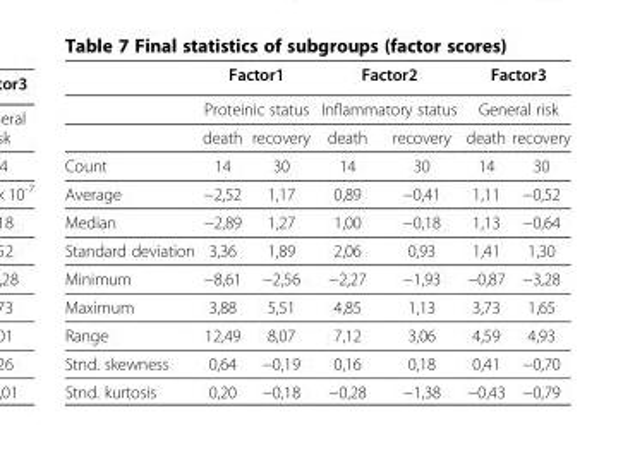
<table><thead><tr><td rowspan="3"></td><td rowspan="2" colspan="2">Factor1 Proteinic status</td><td rowspan="2" colspan="2">Factor2 Inflammatory status</td><td rowspan="2" colspan="2">Factor3 General risk</td></tr><tr></tr><tr><td>death</td><td>recovery</td><td>death</td><td>recovery</td><td>death</td><td>recovery</td></tr></thead><tbody><tr><td>Count</td><td>14</td><td>30</td><td>14</td><td>30</td><td>14</td><td>30</td></tr><tr><td>Average</td><td>−2,52</td><td>1,17</td><td>0,89</td><td>−0,41</td><td>1,11</td><td>−0,52</td></tr><tr><td>Median</td><td>−2,89</td><td>1,27</td><td>1,00</td><td>−0,18</td><td>1,13</td><td>−0,64</td></tr><tr><td>Standard deviation</td><td>3,36</td><td>1,89</td><td>2,06</td><td>0,93</td><td>1,41</td><td>1,30</td></tr><tr><td>Minimum</td><td>−8,61</td><td>−2,56</td><td>−2,27</td><td>−1,93</td><td>−0,87</td><td>−3,28</td></tr><tr><td>Maximum</td><td>3,88</td><td>5,51</td><td>4,85</td><td>1,13</td><td>3,73</td><td>1,65</td></tr><tr><td>Range</td><td>12,49</td><td>8,07</td><td>7,12</td><td>3,06</td><td>4,59</td><td>4,93</td></tr><tr><td>Stnd. skewness</td><td>0,64</td><td>−0,19</td><td>0,16</td><td>0,18</td><td>0,41</td><td>−0,70</td></tr><tr><td>Stnd. kurtosis</td><td>0,20</td><td>−0,18</td><td>−0,28</td><td>−1,38</td><td>−0,43</td><td>−0,79</td></tr></tbody></table>